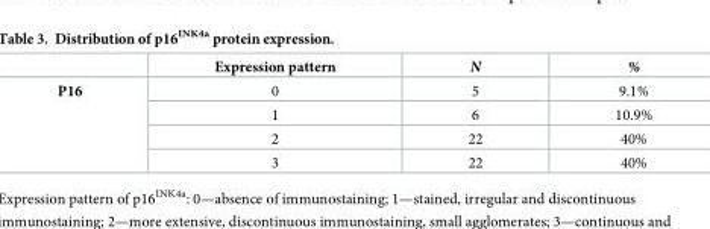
<table><thead><tr><td></td><td>Expression pattern</td><td>N</td><td>%</td></tr></thead><tbody><tr><td rowspan="4">P16</td><td>0</td><td>5</td><td>9.1%</td></tr><tr><td>1</td><td>6</td><td>10.9%</td></tr><tr><td>2</td><td>22</td><td>40%</td></tr><tr><td>3</td><td>22</td><td>40%</td></tr></tbody></table>